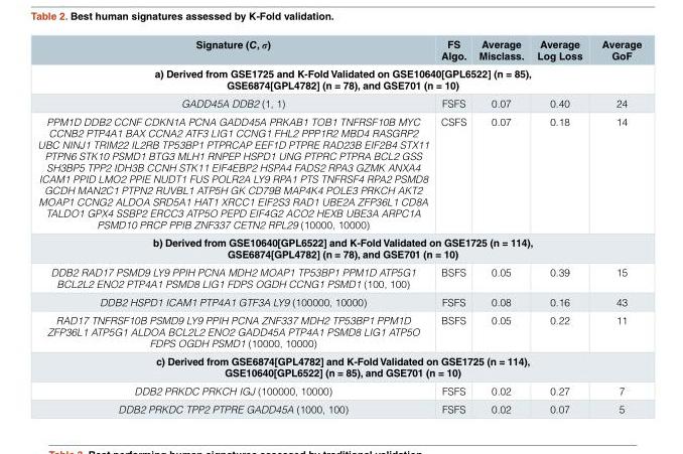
<table><thead><tr><td>Signature (C, σ)</td><td>FS Algo.</td><td>Average Misclass.</td><td>Average Log Loss</td><td>Average GoF</td></tr></thead><tbody><tr><td colspan="5">a) Derived from GSE1725 and K-Fold Validated on GSE10640[GPL6522] (n = 85), GSE6874[GPL4782] (n = 78), and GSE701 (n = 10)</td></tr><tr><td>GADD45A DDB2 (1, 1)</td><td>FSFS</td><td>0.07</td><td>0.40</td><td>24</td></tr><tr><td>PPM1D DDB2 CCNF CDKN1A PCNA GADD45A PRKAB1 TOB1 TNFRSF10B MYC CCNB2 PTP4A1 BAX CCNA2 ATF3 LIG1 CCNG1 FHL2 PPP1R2 MBD4 RASGRP2 UBC NINJ1 TRIM22 IL2RB TP53BP1 PTPRCAP EEF1D PTPRE RAD23B EIF2B4 STX11 PTPN6 STK10 PSMD1 BTG3 MLH1 RNPEP HSPD1 UNG PTPRC PTPRA BCL2 GSS SH3BP5 TPP2 IDH3B CCNH STK11 EIF4EBP2 HSPA4 FADS2 RPA3 GZMK ANXA4 ICAM1 PPID LMO2 PPIE NUDT1 FUS POLR2A LY9 RPA1 PTS TNFRSF4 RPA2 PSMD8 GCDH MAN2C1 PTPN2 RUVBL1 ATP5H GK CD79B MAP4K4 POLE3 PRKCH AKT2 MOAP1 CCNG2 ALDOA SRD5A1 HAT1 XRCC1 EIF2S3 RAD1 UBE2A ZFP36L1 CD8A TALDO1 GPX4 SSBP2 ERCC3 ATP5O PEPD EIF4G2 ACO2 HEXB UBE3A ARPC1A PSMD10 PRCP PPIB ZNF337 CETN2 RPL29 (10000, 10000)</td><td>CSFS</td><td>0.07</td><td>0.18</td><td>14</td></tr><tr><td colspan="5">b) Derived from GSE10640[GPL6522] and K-Fold Validated on GSE1725 (n = 114), GSE6874[GPL4782] (n = 78), and GSE701 (n = 10)</td></tr><tr><td>DDB2 RAD17 PSMD9 LY9 PPIH PCNA MDH2 MOAP1 TP53BP1 PPM1D ATP5G1 BCL2L2 ENO2 PTP4A1 PSMD8 LIG1 FDPS OGDH CCNG1 PSMD1 (100, 100)</td><td>BSFS</td><td>0.05</td><td>0.39</td><td>15</td></tr><tr><td>DDB2 HSPD1 ICAM1 PTP4A1 GTF3A LY9 (100000, 10000)</td><td>FSFS</td><td>0.08</td><td>0.16</td><td>43</td></tr><tr><td>RAD17 TNFRSF10B PSMD9 LY9 PPIH PCNA ZNF337 MDH2 TP53BP1 PPM1D ZFP36L1 ATP5G1 ALDOA BCL2L2 ENO2 GADD45A PTP4A1 PSMD8 LIG1 ATP5O FDPS OGDH PSMD1 (10000, 10000)</td><td>BSFS</td><td>0.05</td><td>0.22</td><td>11</td></tr><tr><td colspan="5">c) Derived from GSE6874[GPL4782] and K-Fold Validated on GSE1725 (n = 114), GSE10640[GPL6522] (n = 85), and GSE701 (n = 10)</td></tr><tr><td>DDB2 PRKDC PRKCH IGJ (100000, 10000)</td><td>FSFS</td><td>0.02</td><td>0.27</td><td>7</td></tr><tr><td>DDB2 PRKDC TPP2 PTPRE GADD45A (1000, 100)</td><td>FSFS</td><td>0.02</td><td>0.07</td><td>5</td></tr></tbody></table>